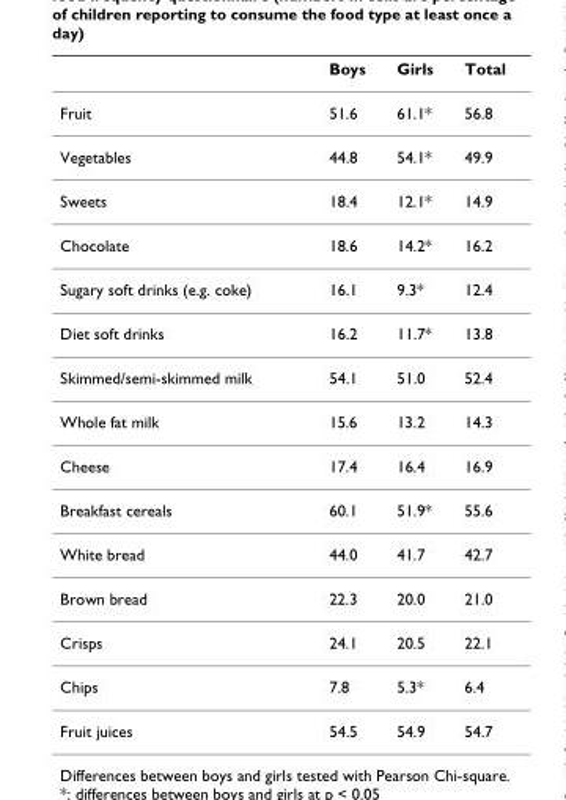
<table><thead><tr><td></td><td>Boys</td><td>Girls</td><td>Total</td></tr></thead><tbody><tr><td>Fruit</td><td>51.6</td><td>61.1*</td><td>56.8</td></tr><tr><td>Vegetables</td><td>44.8</td><td>54.1*</td><td>49.9</td></tr><tr><td>Sweets</td><td>18.4</td><td>12.1*</td><td>14.9</td></tr><tr><td>Chocolate</td><td>18.6</td><td>14.2*</td><td>16.2</td></tr><tr><td>Sugary soft drinks (e.g. coke)</td><td>16.1</td><td>9.3*</td><td>12.4</td></tr><tr><td>Diet soft drinks</td><td>16.2</td><td>11.7*</td><td>13.8</td></tr><tr><td>Skimmed/semi-skimmed milk</td><td>54.1</td><td>51.0</td><td>52.4</td></tr><tr><td>Whole fat milk</td><td>15.6</td><td>13.2</td><td>14.3</td></tr><tr><td>Cheese</td><td>17.4</td><td>16.4</td><td>16.9</td></tr><tr><td>Breakfast cereals</td><td>60.1</td><td>51.9*</td><td>55.6</td></tr><tr><td>White bread</td><td>44.0</td><td>41.7</td><td>42.7</td></tr><tr><td>Brown bread</td><td>22.3</td><td>20.0</td><td>21.0</td></tr><tr><td>Crisps</td><td>24.1</td><td>20.5</td><td>22.1</td></tr><tr><td>Chips</td><td>7.8</td><td>5.3*</td><td>6.4</td></tr><tr><td>Fruit juices</td><td>54.5</td><td>54.9</td><td>54.7</td></tr></tbody></table>